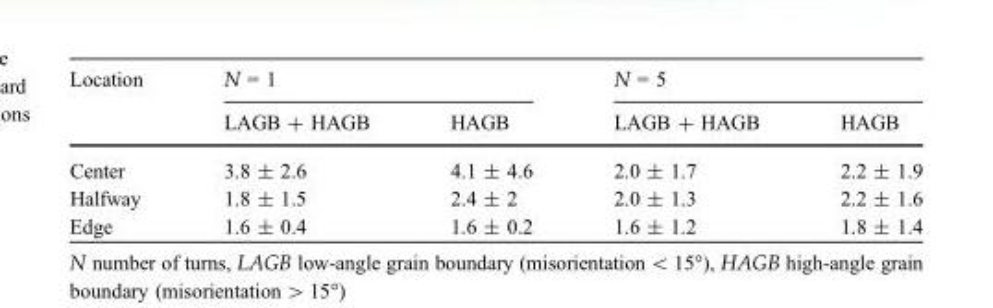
<table><thead><tr><td rowspan="2">Location</td><td colspan="2">N = 1</td><td colspan="2">N = 5</td></tr><tr><td>LAGB + HAGB</td><td>HAGB</td><td>LAGB + HAGB</td><td>HAGB</td></tr></thead><tbody><tr><td>Center</td><td>3.8 ± 2.6</td><td>4.1 ± 4.6</td><td>2.0 ± 1.7</td><td>2.2 ± 1.9</td></tr><tr><td>Halfway</td><td>1.8 ± 1.5</td><td>2.4 ± 2</td><td>2.0 ± 1.3</td><td>2.2 ± 1.6</td></tr><tr><td>Edge</td><td>1.6 ± 0.4</td><td>1.6 ± 0.2</td><td>1.6 ± 1.2</td><td>1.8 ± 1.4</td></tr></tbody></table>